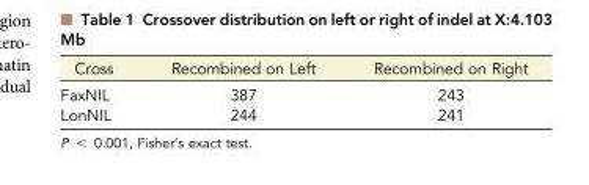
<table><thead><tr><td>Cross</td><td>Recombined on Left</td><td>Recombined on Right</td></tr></thead><tbody><tr><td>FaxNIL</td><td>387</td><td>243</td></tr><tr><td>LonNIL</td><td>244</td><td>241</td></tr></tbody></table>